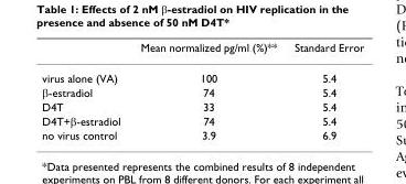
<table><thead><tr><td></td><td>Mean normalized pg/ml (%)**</td><td>Standard Error</td></tr></thead><tbody><tr><td>virus alone (VA)</td><td>100</td><td>5.4</td></tr><tr><td>β-estradiol</td><td>74</td><td>5.4</td></tr><tr><td>D4T</td><td>33</td><td>5.4</td></tr><tr><td>D4T+β-estradiol</td><td>74</td><td>5.4</td></tr><tr><td>no virus control</td><td>3.9</td><td>6.9</td></tr></tbody></table>